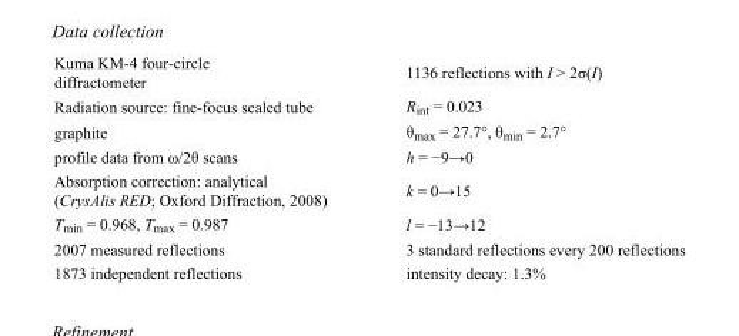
<table><tbody><tr><td>Kuma KM-4 four-circle diffractometer</td><td>1136 reflections with I &gt; 2σ(I)</td></tr><tr><td>Radiation source: fine-focus sealed tube</td><td>R<sub>int</sub> = 0.023</td></tr><tr><td>graphite</td><td>θ<sub>max</sub> = 27.7°, θ<sub>min</sub> = 2.7°</td></tr><tr><td>profile data from ω/2θ scans</td><td>h = −9→0</td></tr><tr><td>Absorption correction: analytical (CrysAlis RED; Oxford Diffraction, 2008)</td><td>k = 0→15</td></tr><tr><td>T<sub>min</sub> = 0.968, T<sub>max</sub> = 0.987</td><td>l = −13→12</td></tr><tr><td>2007 measured reflections</td><td>3 standard reflections every 200 reflections</td></tr><tr><td>1873 independent reflections</td><td>intensity decay: 1.3%</td></tr></tbody></table>